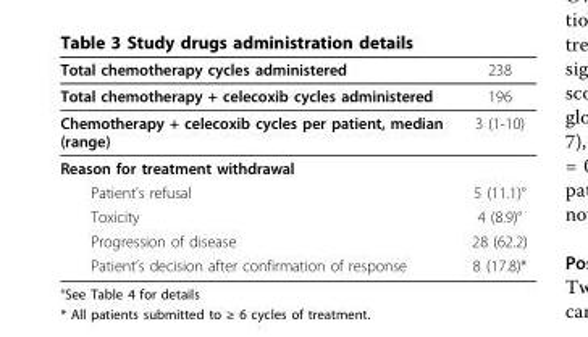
<table><thead><tr><td>Total chemotherapy cycles administered</td><td>238</td></tr></thead><tbody><tr><td>Total chemotherapy + celecoxib cycles administered</td><td>196</td></tr><tr><td>Chemotherapy + celecoxib cycles per patient, median (range)</td><td>3 (1-10)</td></tr><tr><td colspan="2">Reason for treatment withdrawal</td></tr><tr><td>Patient’s refusal</td><td>5 (11.1)°</td></tr><tr><td>Toxicity</td><td>4 (8.9)°</td></tr><tr><td>Progression of disease</td><td>28 (62.2)</td></tr><tr><td>Patient’s decision after confirmation of response</td><td>8 (17.8)*</td></tr></tbody></table>